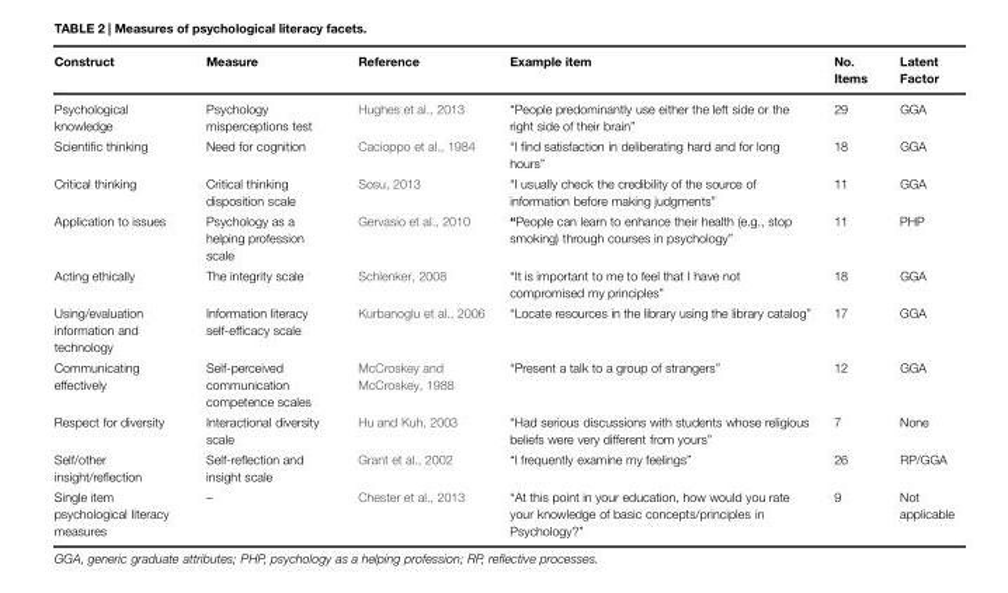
<table><thead><tr><td>Construct</td><td>Measure</td><td>Reference</td><td>Example item</td><td>No. Items</td><td>Latent Factor</td></tr></thead><tbody><tr><td>Psychological knowledge</td><td>Psychology misperceptions test</td><td>Hughes et al., 2013</td><td>“People predominantly use either the left side or the right side of their brain”</td><td>29</td><td>GGA</td></tr><tr><td>Scientific thinking</td><td>Need for cognition</td><td>Cacioppo et al., 1984</td><td>“I find satisfaction in deliberating hard and for long hours”</td><td>18</td><td>GGA</td></tr><tr><td>Critical thinking</td><td>Critical thinking disposition scale</td><td>Sosu, 2013</td><td>“I usually check the credibility of the source of information before making judgments”</td><td>11</td><td>GGA</td></tr><tr><td>Application to issues</td><td>Psychology as a helping profession scale</td><td>Gervasio et al., 2010</td><td>“People can learn to enhance their health (e.g., stop smoking) through courses in psychology”</td><td>11</td><td>PHP</td></tr><tr><td>Acting ethically</td><td>The integrity scale</td><td>Schlenker, 2008</td><td>“It is important to me to feel that I have not compromised my principles”</td><td>18</td><td>GGA</td></tr><tr><td>Using/evaluation information and technology</td><td>Information literacy self-efficacy scale</td><td>Kurbanoglu et al., 2006</td><td>“Locate resources in the library using the library catalog”</td><td>17</td><td>GGA</td></tr><tr><td>Communicating effectively</td><td>Self-perceived communication competence scales</td><td>McCroskey and McCroskey, 1988</td><td>“Present a talk to a group of strangers”</td><td>12</td><td>GGA</td></tr><tr><td>Respect for diversity</td><td>Interactional diversity scale</td><td>Hu and Kuh, 2003</td><td>“Had serious discussions with students whose religious beliefs were very different from yours”</td><td>7</td><td>None</td></tr><tr><td>Self/other insight/reflection</td><td>Self-reflection and insight scale</td><td>Grant et al., 2002</td><td>“I frequently examine my feelings”</td><td>26</td><td>RP/GGA</td></tr><tr><td>Single item psychological literacy measures</td><td>–</td><td>Chester et al., 2013</td><td>“At this point in your education, how would you rate your knowledge of basic concepts/principles in Psychology?”</td><td>9</td><td>Not applicable</td></tr></tbody></table>